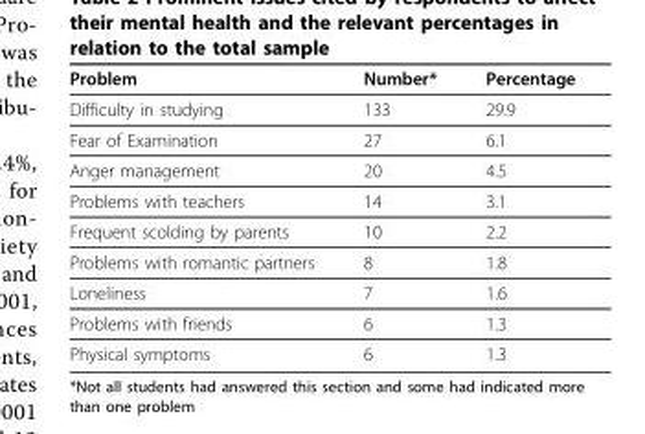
<table><thead><tr><td>Problem</td><td>Number*</td><td>Percentage</td></tr></thead><tbody><tr><td>Difficulty in studying</td><td>133</td><td>29.9</td></tr><tr><td>Fear of Examination</td><td>27</td><td>6.1</td></tr><tr><td>Anger management</td><td>20</td><td>4.5</td></tr><tr><td>Problems with teachers</td><td>14</td><td>3.1</td></tr><tr><td>Frequent scolding by parents</td><td>10</td><td>2.2</td></tr><tr><td>Problems with romantic partners</td><td>8</td><td>1.8</td></tr><tr><td>Loneliness</td><td>7</td><td>1.6</td></tr><tr><td>Problems with friends</td><td>6</td><td>1.3</td></tr><tr><td>Physical symptoms</td><td>6</td><td>1.3</td></tr></tbody></table>